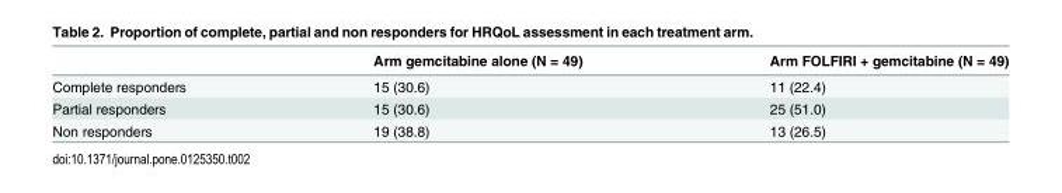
<table><thead><tr><td></td><td>Arm gemcitabine alone (N = 49)</td><td>Arm FOLFIRI + gemcitabine (N = 49)</td></tr></thead><tbody><tr><td>Complete responders</td><td>15 (30.6)</td><td>11 (22.4)</td></tr><tr><td>Partial responders</td><td>15 (30.6)</td><td>25 (51.0)</td></tr><tr><td>Non responders</td><td>19 (38.8)</td><td>13 (26.5)</td></tr></tbody></table>